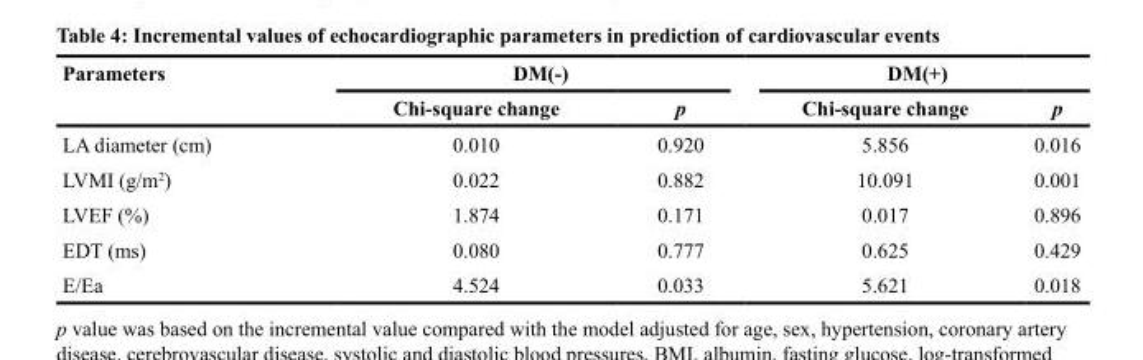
<table><thead><tr><td rowspan="2">Parameters</td><td colspan="2">DM(-)</td><td colspan="2">DM(+)</td></tr><tr><td>Chi-square change</td><td>p</td><td>Chi-square change</td><td>p</td></tr></thead><tbody><tr><td>LA diameter (cm)</td><td>0.010</td><td>0.920</td><td>5.856</td><td>0.016</td></tr><tr><td>LVMI (g/m<sup>2</sup>)</td><td>0.022</td><td>0.882</td><td>10.091</td><td>0.001</td></tr><tr><td>LVEF (%)</td><td>1.874</td><td>0.171</td><td>0.017</td><td>0.896</td></tr><tr><td>EDT (ms)</td><td>0.080</td><td>0.777</td><td>0.625</td><td>0.429</td></tr><tr><td>E/Ea</td><td>4.524</td><td>0.033</td><td>5.621</td><td>0.018</td></tr></tbody></table>